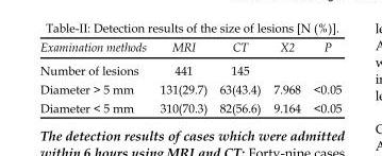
<table><thead><tr><td>Examination methods</td><td>MRI</td><td>CT</td><td>X2</td><td>P</td></tr></thead><tbody><tr><td>Number of lesions</td><td>441</td><td>145</td><td></td><td></td></tr><tr><td>Diameter &gt; 5 mm</td><td>131(29.7)</td><td>63(43.4)</td><td>7.968</td><td>&lt;0.05</td></tr><tr><td>Diameter &lt; 5 mm</td><td>310(70.3)</td><td>82(56.6)</td><td>9.164</td><td>&lt;0.05</td></tr></tbody></table>